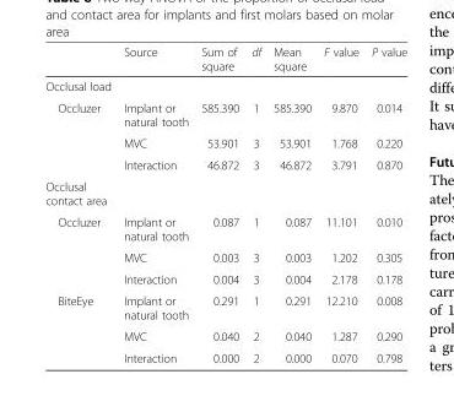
<table><thead><tr><td></td><td>Source</td><td>Sum of square</td><td>df</td><td>Mean square</td><td>F value</td><td>P value</td></tr></thead><tbody><tr><td colspan="7">Occlusal load</td></tr><tr><td rowspan="3">Occluzer</td><td>Implant or natural tooth</td><td>585.390</td><td>1</td><td>585.390</td><td>9.870</td><td>0.014</td></tr><tr><td>MVC</td><td>53.901</td><td>3</td><td>53.901</td><td>1.768</td><td>0.220</td></tr><tr><td>Interaction</td><td>46.872</td><td>3</td><td>46.872</td><td>3.791</td><td>0.870</td></tr><tr><td colspan="7">Occlusal contact area</td></tr><tr><td rowspan="3">Occluzer</td><td>Implant or natural tooth</td><td>0.087</td><td>1</td><td>0.087</td><td>11.101</td><td>0.010</td></tr><tr><td>MVC</td><td>0.003</td><td>3</td><td>0.003</td><td>1.202</td><td>0.305</td></tr><tr><td>Interaction</td><td>0.004</td><td>3</td><td>0.004</td><td>2.178</td><td>0.178</td></tr><tr><td rowspan="3">BiteEye</td><td>Implant or natural tooth</td><td>0.291</td><td>1</td><td>0.291</td><td>12.210</td><td>0.008</td></tr><tr><td>MVC</td><td>0.040</td><td>2</td><td>0.040</td><td>1.287</td><td>0.290</td></tr><tr><td>Interaction</td><td>0.000</td><td>2</td><td>0.000</td><td>0.070</td><td>0.798</td></tr></tbody></table>